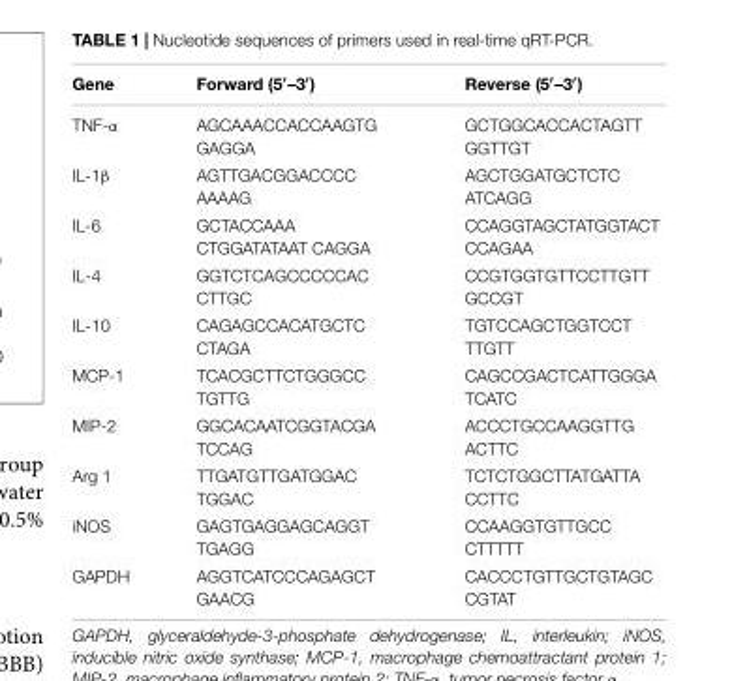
<table><thead><tr><td>Gene</td><td>Forward (5′–3′)</td><td>Reverse (5′–3′)</td></tr></thead><tbody><tr><td>TNF-α</td><td>AGCAAACCACCAAGTG GAGGA</td><td>GCTGGCACCACTAGTT GGTTGT</td></tr><tr><td>IL-1β</td><td>AGTTGACGGACCCC AAAAG</td><td>AGCTGGATGCTCTC ATCAGG</td></tr><tr><td>IL-6</td><td>GCTACCAAA CTGGATATAAT CAGGA</td><td>CCAGGTAGCTATGGTACT CCAGAA</td></tr><tr><td>IL-4</td><td>GGTCTCAGCCCCCAC CTTGC</td><td>CCGTGGTGTTCCTTGTT GCCGT</td></tr><tr><td>IL-10</td><td>CAGAGCCACATGCTC CTAGA</td><td>TGTCCAGCTGGTCCT TTGTT</td></tr><tr><td>MCP-1</td><td>TCACGCTTCTGGGCC TGTTG</td><td>CAGCCGACTCATTGGGA TCATC</td></tr><tr><td>MIP-2</td><td>GGCACAATCGGTACGA TCCAG</td><td>ACCCTGCCAAGGTTG ACTTC</td></tr><tr><td>Arg 1</td><td>TTGATGTTGATGGAC TGGAC</td><td>TCTCTGGCTTATGATTA CCTTC</td></tr><tr><td>iNOS</td><td>GAGTGAGGAGCAGGT TGAGG</td><td>CCAAGGTGTTGCC CTTTTT</td></tr><tr><td>GAPDH</td><td>AGGTCATCCCAGAGCT GAACG</td><td>CACCCTGTTGCTGTAGC CGTAT</td></tr></tbody></table>